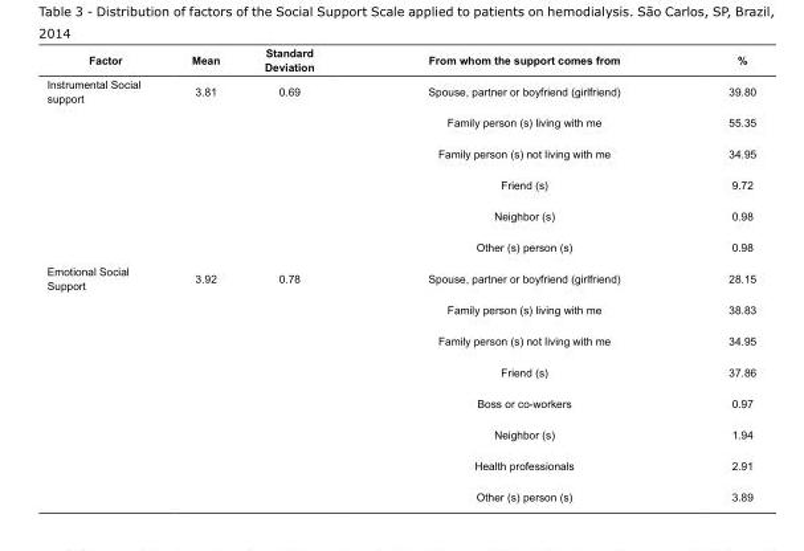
<table><tbody><tr><td>Factor</td><td>Mean</td><td>Standard Deviation</td><td>From whom the support comes from</td><td>%</td></tr><tr><td rowspan="6">Instrumental Social support</td><td>3.81</td><td>0.69</td><td>Spouse, partner or boyfriend (girlfriend)</td><td>39.80</td></tr><tr><td></td><td></td><td>Family person (s) living with me</td><td>55.35</td></tr><tr><td></td><td></td><td>Family person (s) not living with me</td><td>34.95</td></tr><tr><td></td><td></td><td>Friend (s)</td><td>9.72</td></tr><tr><td></td><td></td><td>Neighbor (s)</td><td>0.98</td></tr><tr><td></td><td></td><td>Other (s) person (s)</td><td>0.98</td></tr><tr><td rowspan="8">Emotional Social Support</td><td>3.92</td><td>0.78</td><td>Spouse, partner or boyfriend (girlfriend)</td><td>28.15</td></tr><tr><td></td><td></td><td>Family person (s) living with me</td><td>38.83</td></tr><tr><td></td><td></td><td>Family person (s) not living with me</td><td>34.95</td></tr><tr><td></td><td></td><td>Friend (s)</td><td>37.86</td></tr><tr><td></td><td></td><td>Boss or co-workers</td><td>0.97</td></tr><tr><td></td><td></td><td>Neighbor (s)</td><td>1.94</td></tr><tr><td></td><td></td><td>Health professionals</td><td>2.91</td></tr><tr><td></td><td></td><td>Other (s) person (s)</td><td>3.89</td></tr></tbody></table>